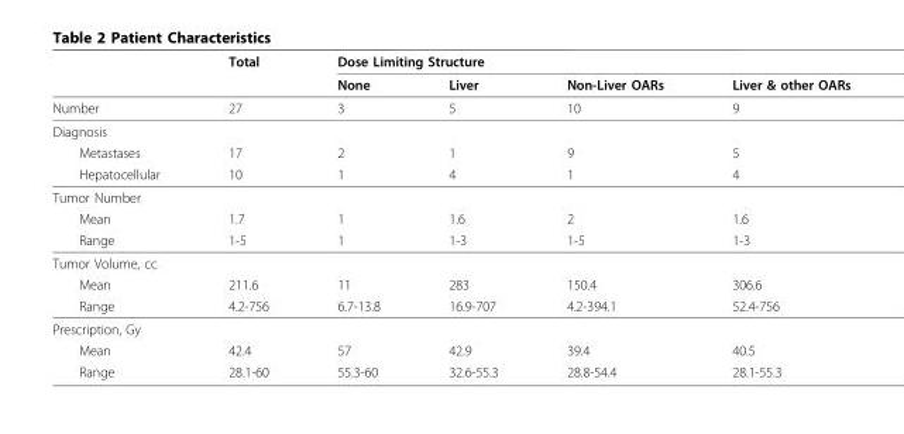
<table><thead><tr><td rowspan="2"></td><td rowspan="2">Total</td><td colspan="4">Dose Limiting Structure</td></tr><tr><td>None</td><td>Liver</td><td>Non-Liver OARs</td><td>Liver &amp; other OARs</td></tr></thead><tbody><tr><td>Number</td><td>27</td><td>3</td><td>5</td><td>10</td><td>9</td></tr><tr><td colspan="6">Diagnosis</td></tr><tr><td>Metastases</td><td>17</td><td>2</td><td>1</td><td>9</td><td>5</td></tr><tr><td>Hepatocellular</td><td>10</td><td>1</td><td>4</td><td>1</td><td>4</td></tr><tr><td colspan="6">Tumor Number</td></tr><tr><td>Mean</td><td>1.7</td><td>1</td><td>1.6</td><td>2</td><td>1.6</td></tr><tr><td>Range</td><td>1-5</td><td>1</td><td>1-3</td><td>1-5</td><td>1-3</td></tr><tr><td colspan="6">Tumor Volume, cc</td></tr><tr><td>Mean</td><td>211.6</td><td>11</td><td>283</td><td>150.4</td><td>306.6</td></tr><tr><td>Range</td><td>4.2-756</td><td>6.7-13.8</td><td>16.9-707</td><td>4.2-394.1</td><td>52.4-756</td></tr><tr><td colspan="6">Prescription, Gy</td></tr><tr><td>Mean</td><td>42.4</td><td>57</td><td>42.9</td><td>39.4</td><td>40.5</td></tr><tr><td>Range</td><td>28.1-60</td><td>55.3-60</td><td>32.6-55.3</td><td>28.8-54.4</td><td>28.1-55.3</td></tr></tbody></table>